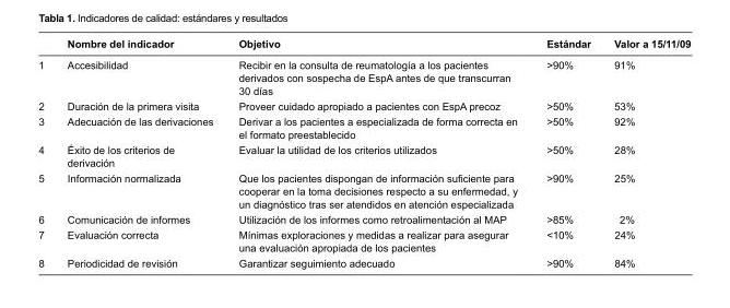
<table><thead><tr><td></td><td>Nombre del indicador</td><td>Objetivo</td><td>Estándar</td><td>Valor a 15/11/09</td></tr></thead><tbody><tr><td>1</td><td>Accesibilidad</td><td>Recibir en la consulta de reumatología a los pacientes derivados con sospecha de EspA antes de que transcurran 30 días</td><td>&gt;90%</td><td>91%</td></tr><tr><td>2</td><td>Duración de la primera visita</td><td>Proveer cuidado apropiado a pacientes con EspA precoz</td><td>&gt;50%</td><td>53%</td></tr><tr><td>3</td><td>Adecuación de las derivaciones</td><td>Derivar a los pacientes a especializada de forma correcta en el formato preestablecido</td><td>&gt;50%</td><td>92%</td></tr><tr><td>4</td><td>Éxito de los criterios de derivación</td><td>Evaluar la utilidad de los criterios utilizados</td><td>&gt;50%</td><td>28%</td></tr><tr><td>5</td><td>Información normalizada</td><td>Que los pacientes dispongan de información suficiente para cooperar en la toma decisiones respecto a su enfermedad, y un diagnóstico tras ser atendidos en atención especializada</td><td>&gt;90%</td><td>25%</td></tr><tr><td>6</td><td>Comunicación de informes</td><td>Utilización de los informes como retroalimentación al MAP</td><td>&gt;85%</td><td>2%</td></tr><tr><td>7</td><td>Evaluación correcta</td><td>Mínimas exploraciones y medidas a realizar para asegurar una evaluación apropiada de los pacientes</td><td>&lt;10%</td><td>24%</td></tr><tr><td>8</td><td>Periodicidad de revisión</td><td>Garantizar seguimiento adecuado</td><td>&gt;90%</td><td>84%</td></tr></tbody></table>